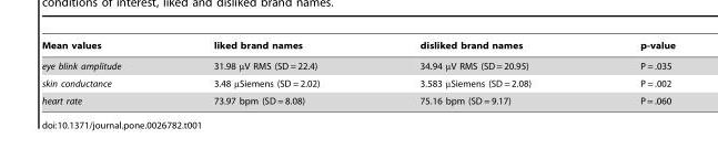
<table><thead><tr><td>Mean values</td><td>liked brand names</td><td>disliked brand names</td><td>p-value</td></tr></thead><tbody><tr><td>eye blink amplitude</td><td>31.98 µV RMS (SD = 22.4)</td><td>34.94 µV RMS (SD = 20.95)</td><td>P = .035</td></tr><tr><td>skin conductance</td><td>3.48 µSiemens (SD = 2.02)</td><td>3.583 µSiemens (SD = 2.08)</td><td>P = .002</td></tr><tr><td>heart rate</td><td>73.97 bpm (SD = 8.08)</td><td>75.16 bpm (SD = 9.17)</td><td>P = .060</td></tr></tbody></table>